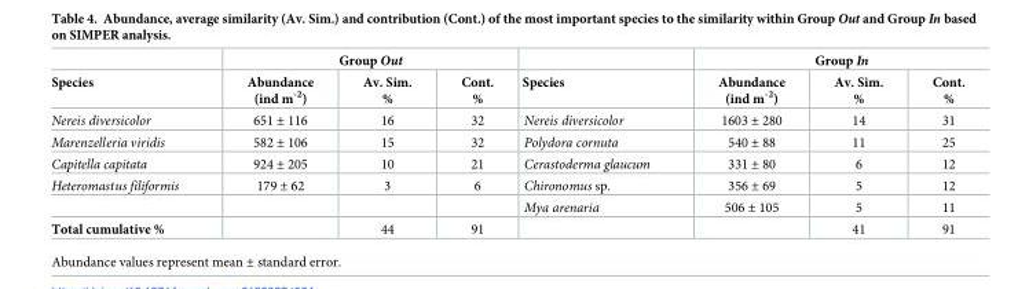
<table><thead><tr><td rowspan="2">Species</td><td colspan="3">Group Out</td><td rowspan="2">Species</td><td colspan="3">Group In</td></tr><tr><td>Abundance (ind m<sup>-2</sup>)</td><td>Av. Sim. %</td><td>Cont. %</td><td>Abundance (ind m<sup>-2</sup>)</td><td>Av. Sim. %</td><td>Cont. %</td></tr></thead><tbody><tr><td>Nereis diversicolor</td><td>651 ± 116</td><td>16</td><td>32</td><td>Nereis diversicolor</td><td>1603 ± 280</td><td>14</td><td>31</td></tr><tr><td>Marenzelleria viridis</td><td>582 ± 106</td><td>15</td><td>32</td><td>Polydora cornuta</td><td>540 ± 88</td><td>11</td><td>25</td></tr><tr><td>Capitella capitata</td><td>924 ± 205</td><td>10</td><td>21</td><td>Cerastoderma glaucum</td><td>331 ± 80</td><td>6</td><td>12</td></tr><tr><td rowspan="2">Heteromastus filiformis</td><td>179 ± 62</td><td>3</td><td>6</td><td>Chironomus sp.</td><td>356 ± 69</td><td>5</td><td>12</td></tr><tr><td></td><td></td><td></td><td>Mya arenaria</td><td>506 ± 105</td><td>5</td><td>11</td></tr><tr><td>Total cumulative %</td><td></td><td>44</td><td>91</td><td></td><td></td><td>41</td><td>91</td></tr></tbody></table>